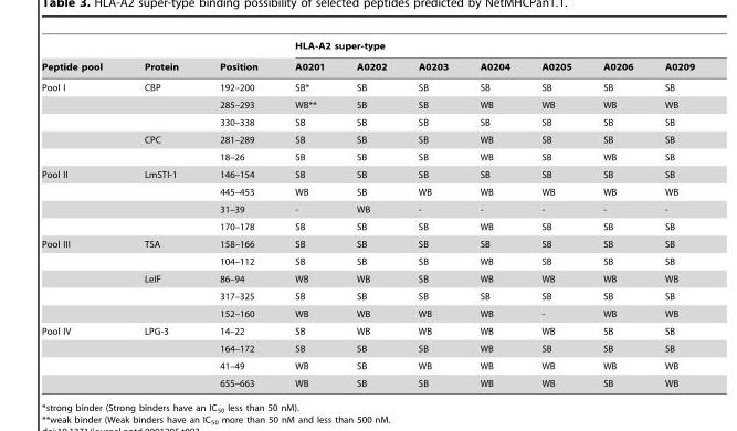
<table><thead><tr><td rowspan="2">Peptide pool</td><td rowspan="2">Protein</td><td rowspan="2">Position</td><td colspan="7">HLA-A2 super-type</td></tr><tr><td>A0201</td><td>A0202</td><td>A0203</td><td>A0204</td><td>A0205</td><td>A0206</td><td>A0209</td></tr></thead><tbody><tr><td rowspan="5">Pool I</td><td>CBP</td><td>192–200</td><td>SB*</td><td>SB</td><td>SB</td><td>SB</td><td>SB</td><td>SB</td><td>SB</td></tr><tr><td></td><td>285–293</td><td>WB**</td><td>SB</td><td>SB</td><td>WB</td><td>WB</td><td>WB</td><td>WB</td></tr><tr><td></td><td>330–338</td><td>SB</td><td>SB</td><td>SB</td><td>SB</td><td>SB</td><td>SB</td><td>SB</td></tr><tr><td>CPC</td><td>281–289</td><td>SB</td><td>SB</td><td>SB</td><td>WB</td><td>SB</td><td>SB</td><td>SB</td></tr><tr><td></td><td>18–26</td><td>SB</td><td>SB</td><td>SB</td><td>WB</td><td>SB</td><td>WB</td><td>SB</td></tr><tr><td rowspan="4">Pool II</td><td>LmSTI-1</td><td>146–154</td><td>SB</td><td>SB</td><td>SB</td><td>SB</td><td>SB</td><td>SB</td><td>SB</td></tr><tr><td></td><td>445–453</td><td>WB</td><td>SB</td><td>WB</td><td>WB</td><td>WB</td><td>WB</td><td>WB</td></tr><tr><td></td><td>31–39</td><td>-</td><td>WB</td><td>-</td><td>-</td><td>-</td><td>-</td><td>-</td></tr><tr><td></td><td>170–178</td><td>SB</td><td>SB</td><td>SB</td><td>WB</td><td>SB</td><td>SB</td><td>SB</td></tr><tr><td rowspan="5">Pool III</td><td>TSA</td><td>158–166</td><td>SB</td><td>SB</td><td>SB</td><td>SB</td><td>SB</td><td>SB</td><td>SB</td></tr><tr><td></td><td>104–112</td><td>SB</td><td>SB</td><td>SB</td><td>WB</td><td>SB</td><td>SB</td><td>SB</td></tr><tr><td>LeIF</td><td>86–94</td><td>WB</td><td>WB</td><td>SB</td><td>WB</td><td>WB</td><td>WB</td><td>WB</td></tr><tr><td></td><td>317–325</td><td>SB</td><td>SB</td><td>SB</td><td>SB</td><td>SB</td><td>SB</td><td>SB</td></tr><tr><td></td><td>152–160</td><td>WB</td><td>WB</td><td>WB</td><td>WB</td><td>-</td><td>WB</td><td>WB</td></tr><tr><td rowspan="4">Pool IV</td><td>LPG-3</td><td>14–22</td><td>SB</td><td>WB</td><td>WB</td><td>WB</td><td>WB</td><td>SB</td><td>SB</td></tr><tr><td></td><td>164–172</td><td>SB</td><td>SB</td><td>SB</td><td>WB</td><td>SB</td><td>SB</td><td>SB</td></tr><tr><td></td><td>41–49</td><td>WB</td><td>SB</td><td>WB</td><td>WB</td><td>WB</td><td>WB</td><td>WB</td></tr><tr><td></td><td>655–663</td><td>WB</td><td>SB</td><td>SB</td><td>WB</td><td>WB</td><td>SB</td><td>WB</td></tr></tbody></table>